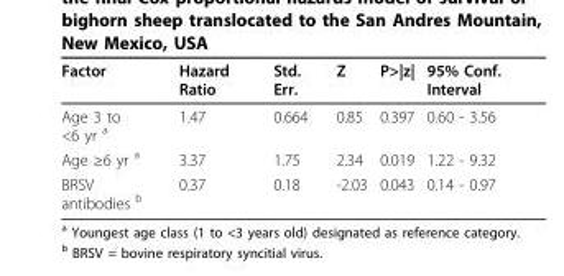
<table><thead><tr><td>Factor</td><td>Hazard Ratio</td><td>Std. Err.</td><td>Z</td><td>P&gt;|z|</td><td>95% Conf. Interval</td></tr></thead><tbody><tr><td>Age 3 to &lt;6 yr <sup>a</sup></td><td>1.47</td><td>0.664</td><td>0.85</td><td>0.397</td><td>0.60 - 3.56</td></tr><tr><td>Age ≥6 yr <sup>a</sup></td><td>3.37</td><td>1.75</td><td>2.34</td><td>0.019</td><td>1.22 - 9.32</td></tr><tr><td>BRSV antibodies <sup>b</sup></td><td>0.37</td><td>0.18</td><td>-2.03</td><td>0.043</td><td>0.14 - 0.97</td></tr></tbody></table>